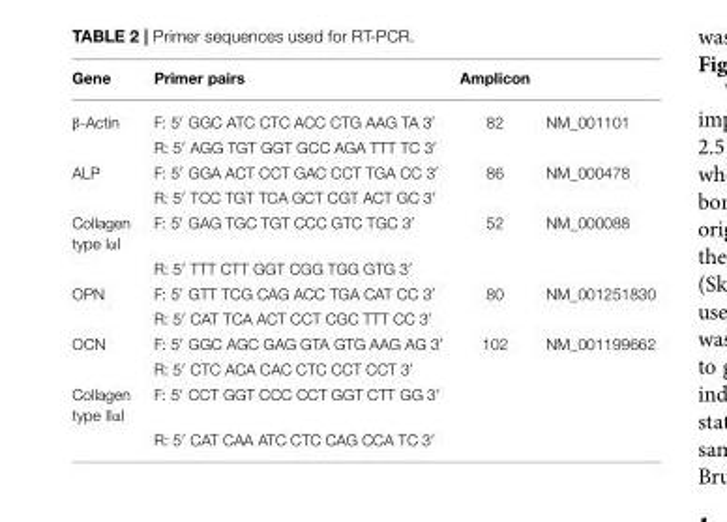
<table><thead><tr><td>Gene</td><td>Primer pairs</td><td>Amplicon</td><td></td></tr></thead><tbody><tr><td rowspan="2">β-Actin</td><td>F: 5′ GGC ATC CTC ACC CTG AAG TA 3′</td><td>82</td><td>NM_001101</td></tr><tr><td>R: 5′ AGG TGT GGT GCC AGA TTT TC 3′</td><td></td><td></td></tr><tr><td rowspan="2">ALP</td><td>F: 5′ GGA ACT CCT GAC CCT TGA CC 3′</td><td>86</td><td>NM_000478</td></tr><tr><td>R: 5′ TCC TGT TCA GCT CGT ACT GC 3′</td><td></td><td></td></tr><tr><td rowspan="2">Collagen type IαI</td><td>F: 5′ GAG TGC TGT CCC GTC TGC 3′</td><td>52</td><td>NM_000088</td></tr><tr><td>R: 5′ TTT CTT GGT CGG TGG GTG 3′</td><td></td><td></td></tr><tr><td rowspan="2">OPN</td><td>F: 5′ GTT TCG CAG ACC TGA CAT CC 3′</td><td>80</td><td>NM_001251830</td></tr><tr><td>R: 5′ CAT TCA ACT CCT CGC TTT CC 3′</td><td></td><td></td></tr><tr><td rowspan="2">OCN</td><td>F: 5′ GGC AGC GAG GTA GTG AAG AG 3′</td><td>102</td><td>NM_001199662</td></tr><tr><td>R: 5′ CTC ACA CAC CTC CCT CCT 3′</td><td></td><td></td></tr><tr><td rowspan="2">Collagen type IIαI</td><td>F: 5′ CCT GGT CCC CCT GGT CTT GG 3′</td><td></td><td></td></tr><tr><td>R: 5′ CAT CAA ATC CTC CAG CCA TC 3′</td><td></td><td></td></tr></tbody></table>